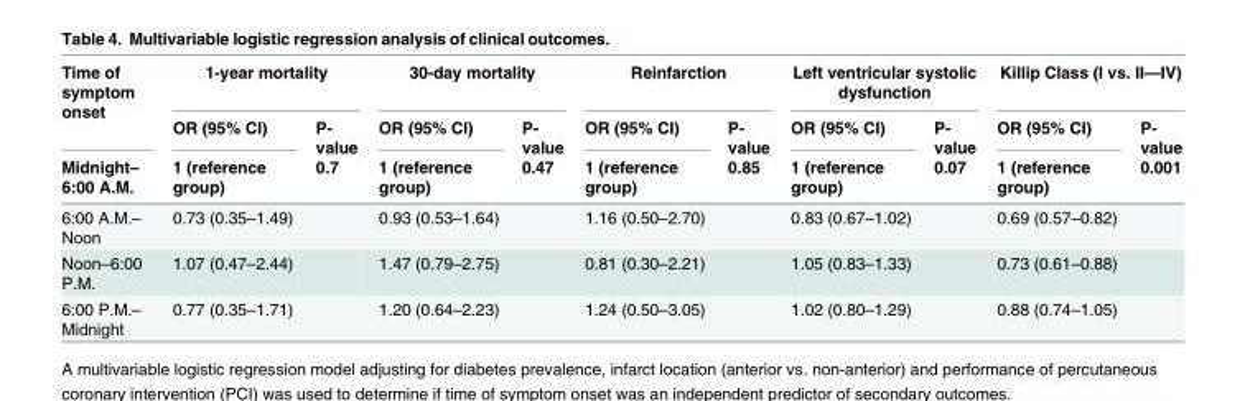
<table><thead><tr><td rowspan="3">Time of symptom onset Midnight– 6:00 A.M.</td><td colspan="2">1-year mortality</td><td colspan="2">30-day mortality</td><td colspan="2">Reinfarction</td><td colspan="2">Left ventricular systolic dysfunction</td><td colspan="2">Killip Class (I vs. II—IV)</td></tr><tr><td rowspan="2">OR (95% CI) 1 (reference group)</td><td rowspan="2">P- value 0.7</td><td rowspan="2">OR (95% CI) 1 (reference group)</td><td rowspan="2">P- value 0.47</td><td rowspan="2">OR (95% CI) 1 (reference group)</td><td rowspan="2">P- value 0.85</td><td rowspan="2">OR (95% CI) 1 (reference group)</td><td rowspan="2">P- value 0.07</td><td rowspan="2">OR (95% CI) 1 (reference group)</td><td rowspan="2">P- value 0.001</td></tr><tr></tr></thead><tbody><tr><td>6:00 A.M.– Noon</td><td>0.73 (0.35–1.49)</td><td></td><td>0.93 (0.53–1.64)</td><td></td><td>1.16 (0.50–2.70)</td><td></td><td>0.83 (0.67–1.02)</td><td></td><td>0.69 (0.57–0.82)</td><td></td></tr><tr><td>Noon–6:00 P.M.</td><td>1.07 (0.47–2.44)</td><td></td><td>1.47 (0.79–2.75)</td><td></td><td>0.81 (0.30–2.21)</td><td></td><td>1.05 (0.83–1.33)</td><td></td><td>0.73 (0.61–0.88)</td><td></td></tr><tr><td>6:00 P.M.– Midnight</td><td>0.77 (0.35–1.71)</td><td></td><td>1.20 (0.64–2.23)</td><td></td><td>1.24 (0.50–3.05)</td><td></td><td>1.02 (0.80–1.29)</td><td></td><td>0.88 (0.74–1.05)</td><td></td></tr></tbody></table>